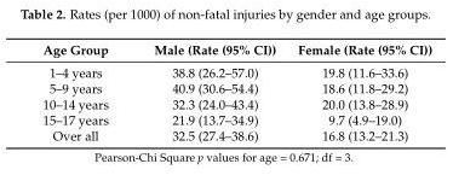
<table><thead><tr><td>Age Group</td><td>Male (Rate (95% CI))</td><td>Female (Rate (95% CI))</td></tr></thead><tbody><tr><td>1–4 years</td><td>38.8 (26.2–57.0)</td><td>19.8 (11.6–33.6)</td></tr><tr><td>5–9 years</td><td>40.9 (30.6–54.4)</td><td>18.6 (11.8–29.2)</td></tr><tr><td>10–14 years</td><td>32.3 (24.0–43.4)</td><td>20.0 (13.8–28.9)</td></tr><tr><td>15–17 years</td><td>21.9 (13.7–34.9)</td><td>9.7 (4.9–19.0)</td></tr><tr><td>Over all</td><td>32.5 (27.4–38.6)</td><td>16.8 (13.2–21.3)</td></tr></tbody></table>